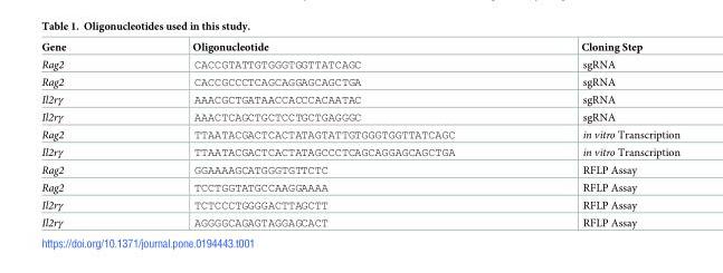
<table><thead><tr><td>Gene</td><td>Oligonucleotide</td><td>Cloning Step</td></tr></thead><tbody><tr><td>Rag2</td><td>CACCGTATTGTGGGTGGTTATCAGC</td><td>sgRNA</td></tr><tr><td>Rag2</td><td>CACCGCCCTCAGCAGGAGCAGCTGA</td><td>sgRNA</td></tr><tr><td>Il2rγ</td><td>AAACGCTGATAACCACCCACAATAC</td><td>sgRNA</td></tr><tr><td>Il2rγ</td><td>AAACTCAGCTGCTCCTGCTGAGGGC</td><td>sgRNA</td></tr><tr><td>Rag2</td><td>TTAATACGACTCACTATAGTATTGTGGGTGGTTATCAGC</td><td>in vitro Transcription</td></tr><tr><td>Il2rγ</td><td>TTAATACGACTCACTATAGCCCTCAGCAGGAGCAGCTGA</td><td>in vitro Transcription</td></tr><tr><td>Rag2</td><td>GGAAAAGCATGGGTGTTCTC</td><td>RFLP Assay</td></tr><tr><td>Rag2</td><td>TCCTGGTATGCCAAGGAAAA</td><td>RFLP Assay</td></tr><tr><td>Il2rγ</td><td>TCTCCCTGGGGACTTAGCTT</td><td>RFLP Assay</td></tr><tr><td>Il2rγ</td><td>AGGGGCAGAGTAGGAGCACT</td><td>RFLP Assay</td></tr></tbody></table>